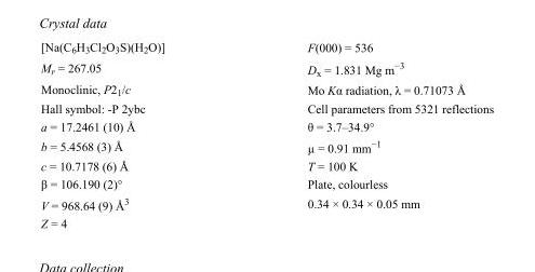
<table><tbody><tr><td>[Na(C<sub>6</sub>H<sub>3</sub>Cl<sub>2</sub>O<sub>3</sub>S)(H<sub>2</sub>O)]</td><td>F(000) = 536</td></tr><tr><td>M<sub>r</sub> = 267.05</td><td>D<sub>x</sub> = 1.831 Mg m<sup>−3</sup></td></tr><tr><td>Monoclinic, P2<sub>1</sub>/c</td><td>Mo Kα radiation, λ = 0.71073 Å</td></tr><tr><td>Hall symbol: -P 2ybc</td><td>Cell parameters from 5321 reflections</td></tr><tr><td>a = 17.2461 (10) Å</td><td>θ = 3.7–34.9°</td></tr><tr><td>b = 5.4568 (3) Å</td><td>µ = 0.91 mm<sup>−1</sup></td></tr><tr><td>c = 10.7178 (6) Å</td><td>T = 100 K</td></tr><tr><td>β = 106.190 (2)°</td><td>Plate, colourless</td></tr><tr><td>V = 968.64 (9) Å<sup>3</sup></td><td>0.34 × 0.34 × 0.05 mm</td></tr><tr><td>Z = 4</td><td></td></tr></tbody></table>